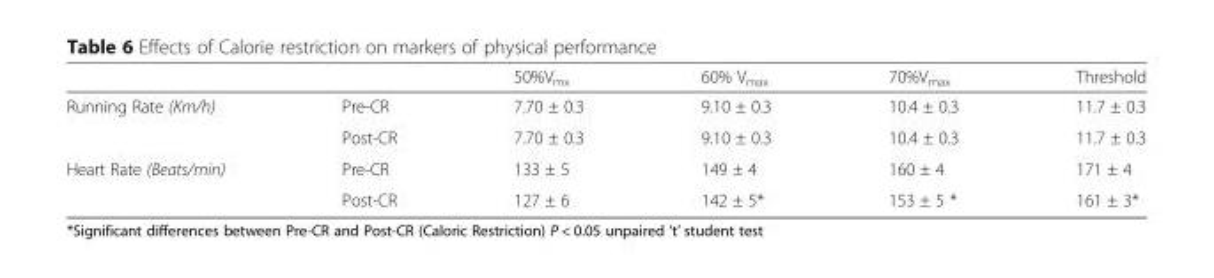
<table><thead><tr><td></td><td></td><td>50%V<sub>mx</sub></td><td>60% V<sub>max</sub></td><td>70%V<sub>max</sub></td><td>Threshold</td></tr></thead><tbody><tr><td rowspan="2">Running Rate (Km/h)</td><td>Pre-CR</td><td>7.70 ± 0.3</td><td>9.10 ± 0.3</td><td>10.4 ± 0.3</td><td>11.7 ± 0.3</td></tr><tr><td>Post-CR</td><td>7.70 ± 0.3</td><td>9.10 ± 0.3</td><td>10.4 ± 0.3</td><td>11.7 ± 0.3</td></tr><tr><td rowspan="2">Heart Rate (Beats/min)</td><td>Pre-CR</td><td>133 ± 5</td><td>149 ± 4</td><td>160 ± 4</td><td>171 ± 4</td></tr><tr><td>Post-CR</td><td>127 ± 6</td><td>142 ± 5*</td><td>153 ± 5 *</td><td>161 ± 3*</td></tr></tbody></table>